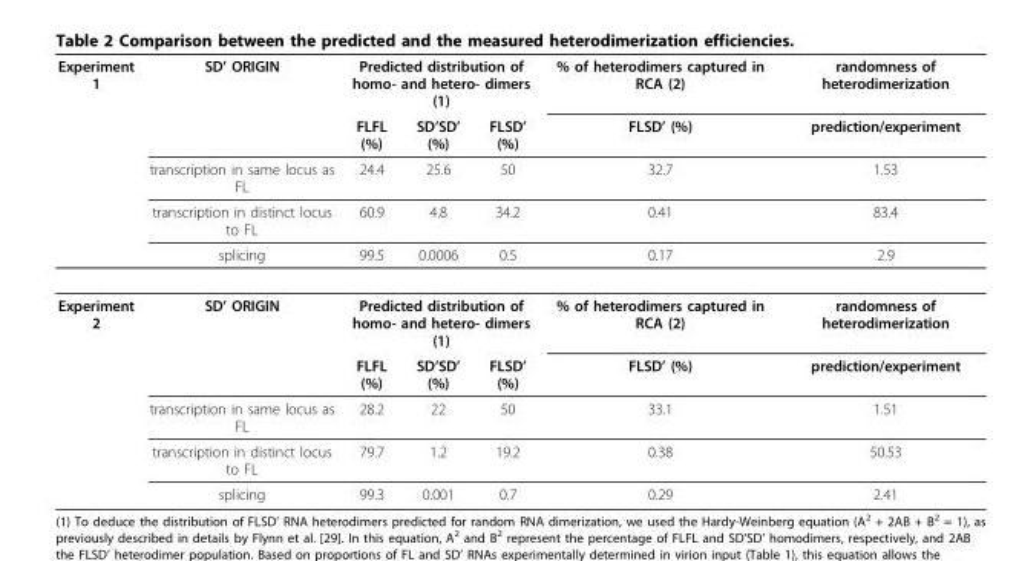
<table><thead><tr><td rowspan="5">Experiment 1</td><td rowspan="5">SD’ ORIGIN transcription in same locus as FL transcription in distinct locus to FL splicing</td><td colspan="3">Predicted distribution of homo- and hetero- dimers (1)</td><td rowspan="5">% of heterodimers captured in RCA (2) FLSD’ (%) 32.7 0.41 0.17</td><td rowspan="5">randomness of heterodimerization prediction/experiment 1.53 83.4 2.9</td></tr><tr><td rowspan="4">FLFL (%) 24.4 60.9 99.5</td><td rowspan="4">SD’SD’ (%) 25.6 4.8 0.0006</td><td rowspan="4">FLSD’ (%) 50 34.2 0.5</td></tr><tr></tr><tr></tr><tr></tr></thead><tbody><tr><td rowspan="5">Experiment 2</td><td>SD’ ORIGIN</td><td colspan="3">Predicted distribution of homo- and hetero- dimers (1)</td><td>% of heterodimers captured in RCA (2)</td><td>randomness of heterodimerization</td></tr><tr><td></td><td>FLFL (%)</td><td>SD’SD’ (%)</td><td>FLSD’ (%)</td><td>FLSD’ (%)</td><td>prediction/experiment</td></tr><tr><td>transcription in same locus as FL</td><td>28.2</td><td>22</td><td>50</td><td>33.1</td><td>1.51</td></tr><tr><td>transcription in distinct locus to FL</td><td>79.7</td><td>1.2</td><td>19.2</td><td>0.38</td><td>50.53</td></tr><tr><td>splicing</td><td>99.3</td><td>0.001</td><td>0.7</td><td>0.29</td><td>2.41</td></tr></tbody></table>